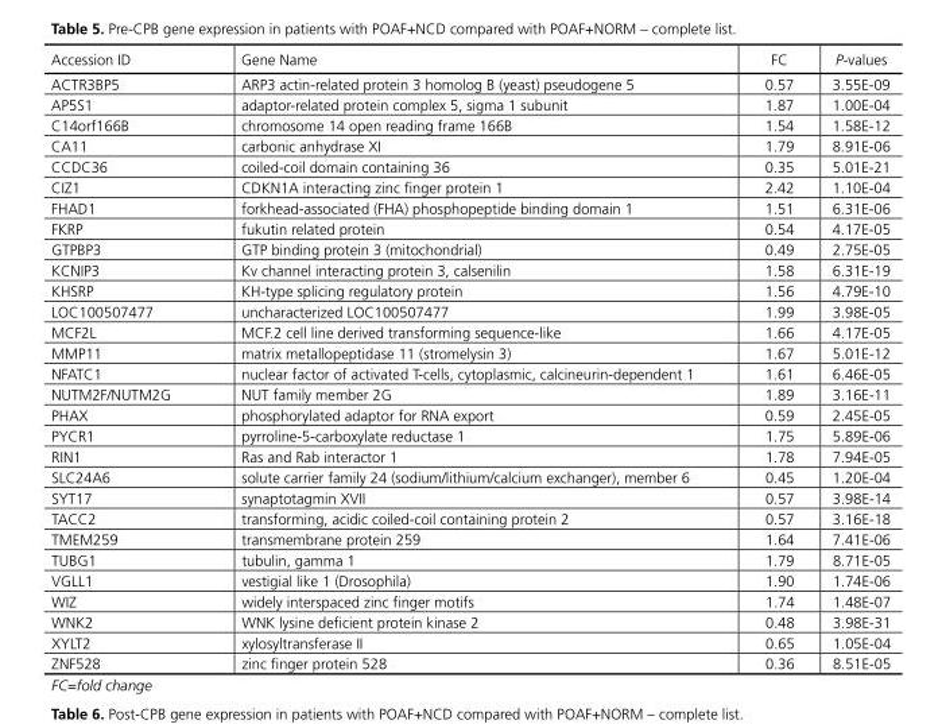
<table><thead><tr><td>Accession ID</td><td>Gene Name</td><td>FC</td><td>P-values</td></tr></thead><tbody><tr><td>ACTR3BP5</td><td>ARP3 actin-related protein 3 homolog B (yeast) pseudogene 5</td><td>0.57</td><td>3.55E-09</td></tr><tr><td>AP5S1</td><td>adaptor-related protein complex 5, sigma 1 subunit</td><td>1.87</td><td>1.00E-04</td></tr><tr><td>C14orf166B</td><td>chromosome 14 open reading frame 166B</td><td>1.54</td><td>1.58E-12</td></tr><tr><td>CA11</td><td>carbonic anhydrase XI</td><td>1.79</td><td>8.91E-06</td></tr><tr><td>CCDC36</td><td>coiled-coil domain containing 36</td><td>0.35</td><td>5.01E-21</td></tr><tr><td>CIZ1</td><td>CDKN1A interacting zinc finger protein 1</td><td>2.42</td><td>1.10E-04</td></tr><tr><td>FHAD1</td><td>forkhead-associated (FHA) phosphopeptide binding domain 1</td><td>1.51</td><td>6.31E-06</td></tr><tr><td>FKRP</td><td>fukutin related protein</td><td>0.54</td><td>4.17E-05</td></tr><tr><td>GTPBP3</td><td>GTP binding protein 3 (mitochondrial)</td><td>0.49</td><td>2.75E-05</td></tr><tr><td>KCNIP3</td><td>Kv channel interacting protein 3, calsenilin</td><td>1.58</td><td>6.31E-19</td></tr><tr><td>KHSRP</td><td>KH-type splicing regulatory protein</td><td>1.56</td><td>4.79E-10</td></tr><tr><td>LOC100507477</td><td>uncharacterized LOC100507477</td><td>1.99</td><td>3.98E-05</td></tr><tr><td>MCF2L</td><td>MCF.2 cell line derived transforming sequence-like</td><td>1.66</td><td>4.17E-05</td></tr><tr><td>MMP11</td><td>matrix metallopeptidase 11 (stromelysin 3)</td><td>1.67</td><td>5.01E-12</td></tr><tr><td>NFATC1</td><td>nuclear factor of activated T-cells, cytoplasmic, calcineurin-dependent 1</td><td>1.61</td><td>6.46E-05</td></tr><tr><td>NUTM2F/NUTM2G</td><td>NUT family member 2G</td><td>1.89</td><td>3.16E-11</td></tr><tr><td>PHAX</td><td>phosphorylated adaptor for RNA export</td><td>0.59</td><td>2.45E-05</td></tr><tr><td>PYCR1</td><td>pyrroline-5-carboxylate reductase 1</td><td>1.75</td><td>5.89E-06</td></tr><tr><td>RIN1</td><td>Ras and Rab interactor 1</td><td>1.78</td><td>7.94E-05</td></tr><tr><td>SLC24A6</td><td>solute carrier family 24 (sodium/lithium/calcium exchanger), member 6</td><td>0.45</td><td>1.20E-04</td></tr><tr><td>SYT17</td><td>synaptotagmin XVII</td><td>0.57</td><td>3.98E-14</td></tr><tr><td>TACC2</td><td>transforming, acidic coiled-coil containing protein 2</td><td>0.57</td><td>3.16E-18</td></tr><tr><td>TMEM259</td><td>transmembrane protein 259</td><td>1.64</td><td>7.41E-06</td></tr><tr><td>TUBG1</td><td>tubulin, gamma 1</td><td>1.79</td><td>8.71E-05</td></tr><tr><td>VGLL1</td><td>vestigial like 1 (Drosophila)</td><td>1.90</td><td>1.74E-06</td></tr><tr><td>WIZ</td><td>widely interspaced zinc finger motifs</td><td>1.74</td><td>1.48E-07</td></tr><tr><td>WNK2</td><td>WNK lysine deficient protein kinase 2</td><td>0.48</td><td>3.98E-31</td></tr><tr><td>XYLT2</td><td>xylosyltransferase II</td><td>0.65</td><td>1.05E-04</td></tr><tr><td>ZNF528</td><td>zinc finger protein 528</td><td>0.36</td><td>8.51E-05</td></tr></tbody></table>